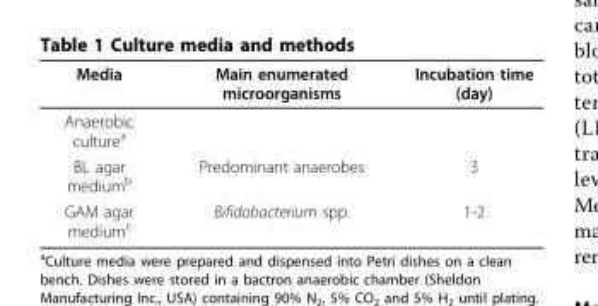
<table><thead><tr><td>Media</td><td>Main enumerated microorganisms</td><td>Incubation time (day)</td></tr></thead><tbody><tr><td colspan="3">Anaerobic culture<sup>a</sup></td></tr><tr><td>BL agar medium<sup>b</sup></td><td>Predominant anaerobes</td><td>3</td></tr><tr><td>GAM agar medium<sup>c</sup></td><td>Bifidobacterium spp.</td><td>1-2</td></tr></tbody></table>